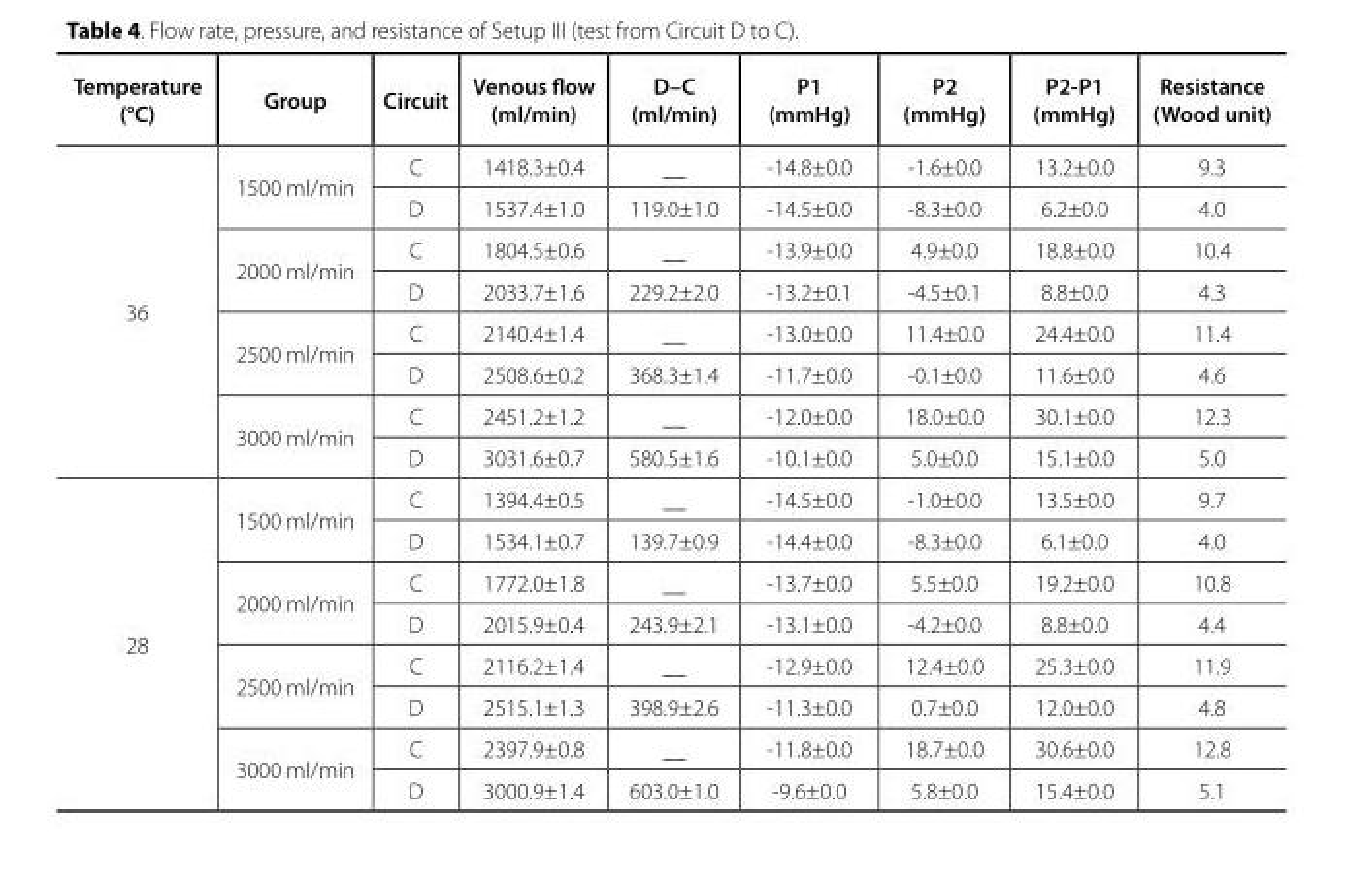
<table><thead><tr><td>Temperature (°C)</td><td>Group</td><td>Circuit</td><td>Venous flow (ml/min)</td><td>D–C (ml/min)</td><td>P1 (mmHg)</td><td>P2 (mmHg)</td><td>P2-P1 (mmHg)</td><td>Resistance (Wood unit)</td></tr></thead><tbody><tr><td rowspan="8">36</td><td rowspan="2">1500 ml/min</td><td>C</td><td>1418.3±0.4</td><td>__</td><td>-14.8±0.0</td><td>-1.6±0.0</td><td>13.2±0.0</td><td>9.3</td></tr><tr><td>D</td><td>1537.4±1.0</td><td>119.0±1.0</td><td>-14.5±0.0</td><td>-8.3±0.0</td><td>6.2±0.0</td><td>4.0</td></tr><tr><td rowspan="2">2000 ml/min</td><td>C</td><td>1804.5±0.6</td><td>__</td><td>-13.9±0.0</td><td>4.9±0.0</td><td>18.8±0.0</td><td>10.4</td></tr><tr><td>D</td><td>2033.7±1.6</td><td>229.2±2.0</td><td>-13.2±0.1</td><td>-4.5±0.1</td><td>8.8±0.0</td><td>4.3</td></tr><tr><td rowspan="2">2500 ml/min</td><td>C</td><td>2140.4±1.4</td><td>__</td><td>-13.0±0.0</td><td>11.4±0.0</td><td>24.4±0.0</td><td>11.4</td></tr><tr><td>D</td><td>2508.6±0.2</td><td>368.3±1.4</td><td>-11.7±0.0</td><td>-0.1±0.0</td><td>11.6±0.0</td><td>4.6</td></tr><tr><td rowspan="2">3000 ml/min</td><td>C</td><td>2451.2±1.2</td><td>__</td><td>-12.0±0.0</td><td>18.0±0.0</td><td>30.1±0.0</td><td>12.3</td></tr><tr><td>D</td><td>3031.6±0.7</td><td>580.5±1.6</td><td>-10.1±0.0</td><td>5.0±0.0</td><td>15.1±0.0</td><td>5.0</td></tr><tr><td rowspan="8">28</td><td rowspan="2">1500 ml/min</td><td>C</td><td>1394.4±0.5</td><td>__</td><td>-14.5±0.0</td><td>-1.0±0.0</td><td>13.5±0.0</td><td>9.7</td></tr><tr><td>D</td><td>1534.1±0.7</td><td>139.7±0.9</td><td>-14.4±0.0</td><td>-8.3±0.0</td><td>6.1±0.0</td><td>4.0</td></tr><tr><td rowspan="2">2000 ml/min</td><td>C</td><td>1772.0±1.8</td><td>__</td><td>-13.7±0.0</td><td>5.5±0.0</td><td>19.2±0.0</td><td>10.8</td></tr><tr><td>D</td><td>2015.9±0.4</td><td>243.9±2.1</td><td>-13.1±0.0</td><td>-4.2±0.0</td><td>8.8±0.0</td><td>4.4</td></tr><tr><td rowspan="2">2500 ml/min</td><td>C</td><td>2116.2±1.4</td><td>__</td><td>-12.9±0.0</td><td>12.4±0.0</td><td>25.3±0.0</td><td>11.9</td></tr><tr><td>D</td><td>2515.1±1.3</td><td>398.9±2.6</td><td>-11.3±0.0</td><td>0.7±0.0</td><td>12.0±0.0</td><td>4.8</td></tr><tr><td rowspan="2">3000 ml/min</td><td>C</td><td>2397.9±0.8</td><td>__</td><td>-11.8±0.0</td><td>18.7±0.0</td><td>30.6±0.0</td><td>12.8</td></tr><tr><td>D</td><td>3000.9±1.4</td><td>603.0±1.0</td><td>-9.6±0.0</td><td>5.8±0.0</td><td>15.4±0.0</td><td>5.1</td></tr></tbody></table>